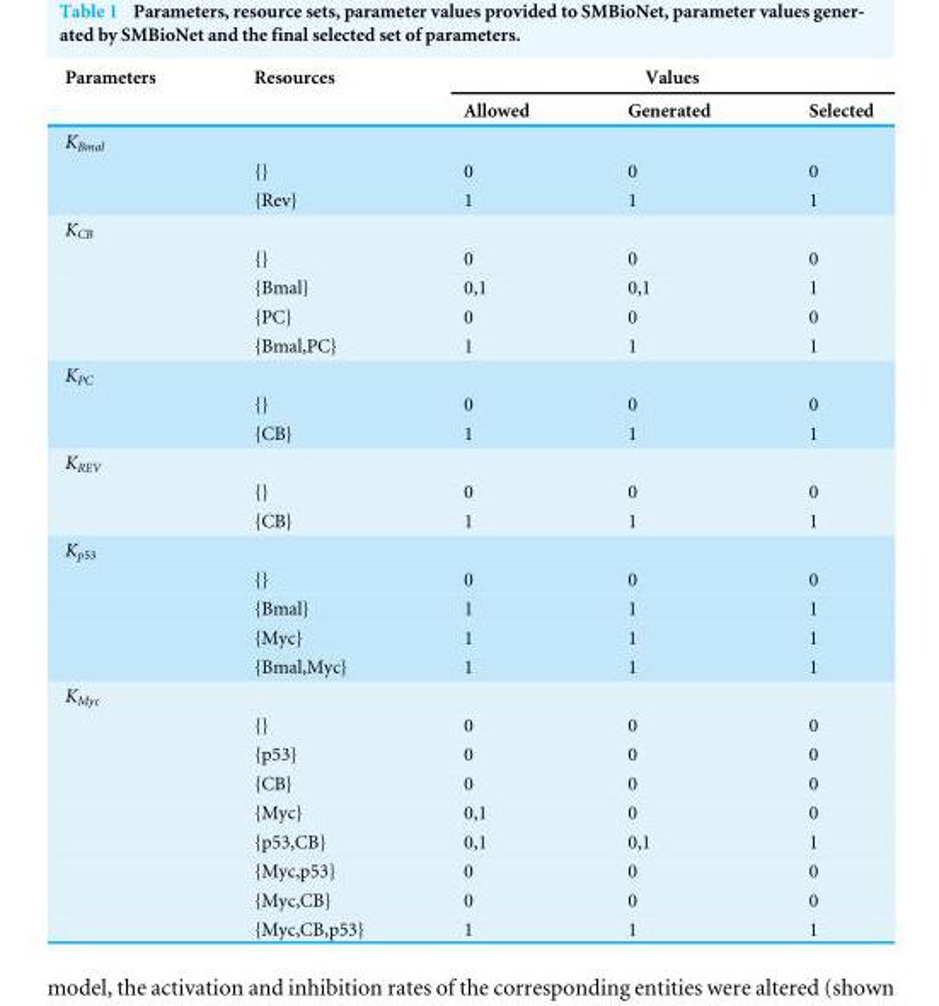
<table><thead><tr><td rowspan="2">Parameters</td><td rowspan="2">Resources</td><td colspan="3">Values</td></tr><tr><td>Allowed</td><td>Generated</td><td>Selected</td></tr></thead><tbody><tr><td colspan="5">K<sub>Bmal</sub></td></tr><tr><td></td><td>{}</td><td>0</td><td>0</td><td>0</td></tr><tr><td></td><td>{Rev}</td><td>1</td><td>1</td><td>1</td></tr><tr><td colspan="5">K<sub>CB</sub></td></tr><tr><td></td><td>{}</td><td>0</td><td>0</td><td>0</td></tr><tr><td></td><td>{Bmal}</td><td>0,1</td><td>0,1</td><td>1</td></tr><tr><td></td><td>{PC}</td><td>0</td><td>0</td><td>0</td></tr><tr><td></td><td>{Bmal,PC}</td><td>1</td><td>1</td><td>1</td></tr><tr><td colspan="5">K<sub>PC</sub></td></tr><tr><td></td><td>{}</td><td>0</td><td>0</td><td>0</td></tr><tr><td></td><td>{CB}</td><td>1</td><td>1</td><td>1</td></tr><tr><td colspan="5">K<sub>REV</sub></td></tr><tr><td></td><td>{}</td><td>0</td><td>0</td><td>0</td></tr><tr><td></td><td>{CB}</td><td>1</td><td>1</td><td>1</td></tr><tr><td colspan="5">K<sub>p53</sub></td></tr><tr><td></td><td>{}</td><td>0</td><td>0</td><td>0</td></tr><tr><td></td><td>{Bmal}</td><td>1</td><td>1</td><td>1</td></tr><tr><td></td><td>{Myc}</td><td>1</td><td>1</td><td>1</td></tr><tr><td></td><td>{Bmal,Myc}</td><td>1</td><td>1</td><td>1</td></tr><tr><td colspan="5">K<sub>Myc</sub></td></tr><tr><td></td><td>{}</td><td>0</td><td>0</td><td>0</td></tr><tr><td></td><td>{p53}</td><td>0</td><td>0</td><td>0</td></tr><tr><td></td><td>{CB}</td><td>0</td><td>0</td><td>0</td></tr><tr><td></td><td>{Myc}</td><td>0,1</td><td>0</td><td>0</td></tr><tr><td></td><td>{p53,CB}</td><td>0,1</td><td>0,1</td><td>1</td></tr><tr><td></td><td>{Myc,p53}</td><td>0</td><td>0</td><td>0</td></tr><tr><td></td><td>{Myc,CB}</td><td>0</td><td>0</td><td>0</td></tr><tr><td></td><td>{Myc,CB,p53}</td><td>1</td><td>1</td><td>1</td></tr></tbody></table>